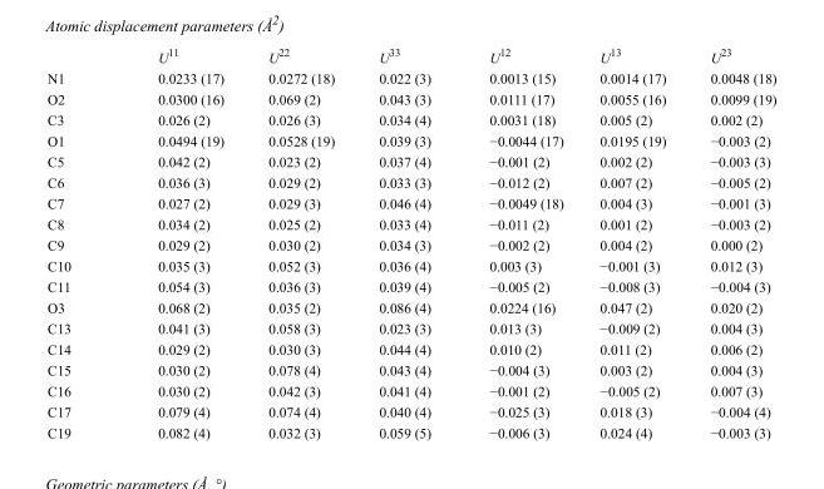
<table><thead><tr><td></td><td>U<sup>11</sup></td><td>U<sup>22</sup></td><td>U<sup>33</sup></td><td>U<sup>12</sup></td><td>U<sup>13</sup></td><td>U<sup>23</sup></td></tr></thead><tbody><tr><td>N1</td><td>0.0233 (17)</td><td>0.0272 (18)</td><td>0.022 (3)</td><td>0.0013 (15)</td><td>0.0014 (17)</td><td>0.0048 (18)</td></tr><tr><td>O2</td><td>0.0300 (16)</td><td>0.069 (2)</td><td>0.043 (3)</td><td>0.0111 (17)</td><td>0.0055 (16)</td><td>0.0099 (19)</td></tr><tr><td>C3</td><td>0.026 (2)</td><td>0.026 (3)</td><td>0.034 (4)</td><td>0.0031 (18)</td><td>0.005 (2)</td><td>0.002 (2)</td></tr><tr><td>O1</td><td>0.0494 (19)</td><td>0.0528 (19)</td><td>0.039 (3)</td><td>−0.0044 (17)</td><td>0.0195 (19)</td><td>−0.003 (2)</td></tr><tr><td>C5</td><td>0.042 (2)</td><td>0.023 (2)</td><td>0.037 (4)</td><td>−0.001 (2)</td><td>0.002 (2)</td><td>−0.003 (3)</td></tr><tr><td>C6</td><td>0.036 (3)</td><td>0.029 (2)</td><td>0.033 (3)</td><td>−0.012 (2)</td><td>0.007 (2)</td><td>−0.005 (2)</td></tr><tr><td>C7</td><td>0.027 (2)</td><td>0.029 (3)</td><td>0.046 (4)</td><td>−0.0049 (18)</td><td>0.004 (3)</td><td>−0.001 (3)</td></tr><tr><td>C8</td><td>0.034 (2)</td><td>0.025 (2)</td><td>0.033 (4)</td><td>−0.011 (2)</td><td>0.001 (2)</td><td>−0.003 (2)</td></tr><tr><td>C9</td><td>0.029 (2)</td><td>0.030 (2)</td><td>0.034 (3)</td><td>−0.002 (2)</td><td>0.004 (2)</td><td>0.000 (2)</td></tr><tr><td>C10</td><td>0.035 (3)</td><td>0.052 (3)</td><td>0.036 (4)</td><td>0.003 (3)</td><td>−0.001 (3)</td><td>0.012 (3)</td></tr><tr><td>C11</td><td>0.054 (3)</td><td>0.036 (3)</td><td>0.039 (4)</td><td>−0.005 (2)</td><td>−0.008 (3)</td><td>−0.004 (3)</td></tr><tr><td>O3</td><td>0.068 (2)</td><td>0.035 (2)</td><td>0.086 (4)</td><td>0.0224 (16)</td><td>0.047 (2)</td><td>0.020 (2)</td></tr><tr><td>C13</td><td>0.041 (3)</td><td>0.058 (3)</td><td>0.023 (3)</td><td>0.013 (3)</td><td>−0.009 (2)</td><td>0.004 (3)</td></tr><tr><td>C14</td><td>0.029 (2)</td><td>0.030 (3)</td><td>0.044 (4)</td><td>0.010 (2)</td><td>0.011 (2)</td><td>0.006 (2)</td></tr><tr><td>C15</td><td>0.030 (2)</td><td>0.078 (4)</td><td>0.043 (4)</td><td>−0.004 (3)</td><td>0.003 (2)</td><td>0.004 (3)</td></tr><tr><td>C16</td><td>0.030 (2)</td><td>0.042 (3)</td><td>0.041 (4)</td><td>−0.001 (2)</td><td>−0.005 (2)</td><td>0.007 (3)</td></tr><tr><td>C17</td><td>0.079 (4)</td><td>0.074 (4)</td><td>0.040 (4)</td><td>−0.025 (3)</td><td>0.018 (3)</td><td>−0.004 (4)</td></tr><tr><td>C19</td><td>0.082 (4)</td><td>0.032 (3)</td><td>0.059 (5)</td><td>−0.006 (3)</td><td>0.024 (4)</td><td>−0.003 (3)</td></tr></tbody></table>